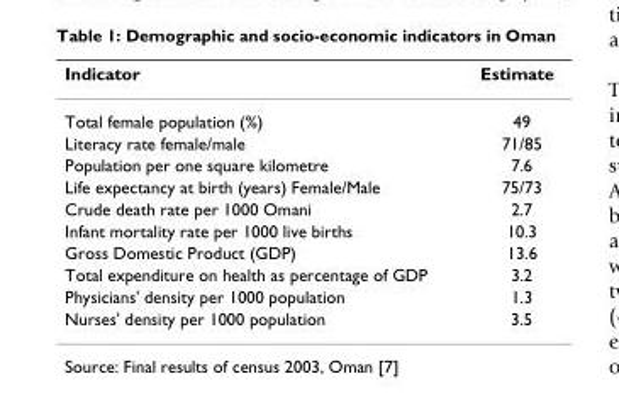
<table><thead><tr><td>Indicator</td><td>Estimate</td></tr></thead><tbody><tr><td>Total female population (%)</td><td>49</td></tr><tr><td>Literacy rate female/male</td><td>71/85</td></tr><tr><td>Population per one square kilometre</td><td>7.6</td></tr><tr><td>Life expectancy at birth (years) Female/Male</td><td>75/73</td></tr><tr><td>Crude death rate per 1000 Omani</td><td>2.7</td></tr><tr><td>Infant mortality rate per 1000 live births</td><td>10.3</td></tr><tr><td>Gross Domestic Product (GDP)</td><td>13.6</td></tr><tr><td>Total expenditure on health as percentage of GDP</td><td>3.2</td></tr><tr><td>Physicians&#x27; density per 1000 population</td><td>1.3</td></tr><tr><td>Nurses&#x27; density per 1000 population</td><td>3.5</td></tr></tbody></table>